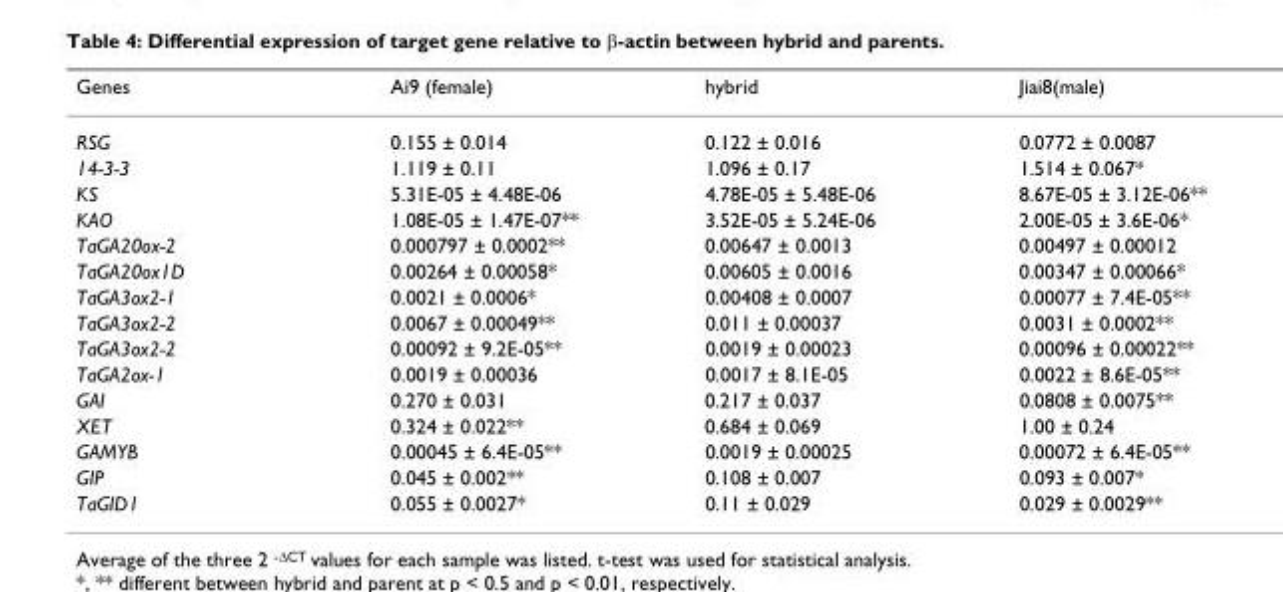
<table><thead><tr><td>Genes</td><td>Ai9 (female)</td><td>hybrid</td><td>Jiai8(male)</td></tr></thead><tbody><tr><td>RSG</td><td>0.155 ± 0.014</td><td>0.122 ± 0.016</td><td>0.0772 ± 0.0087</td></tr><tr><td>14-3-3</td><td>1.119 ± 0.11</td><td>1.096 ± 0.17</td><td>1.514 ± 0.067*</td></tr><tr><td>KS</td><td>5.31E-05 ± 4.48E-06</td><td>4.78E-05 ± 5.48E-06</td><td>8.67E-05 ± 3.12E-06**</td></tr><tr><td>KAO</td><td>1.08E-05 ± 1.47E-07**</td><td>3.52E-05 ± 5.24E-06</td><td>2.00E-05 ± 3.6E-06*</td></tr><tr><td>TaGA20ox-2</td><td>0.000797 ± 0.0002**</td><td>0.00647 ± 0.0013</td><td>0.00497 ± 0.00012</td></tr><tr><td>TaGA20ox1D</td><td>0.00264 ± 0.00058*</td><td>0.00605 ± 0.0016</td><td>0.00347 ± 0.00066*</td></tr><tr><td>TaGA3ox2-1</td><td>0.0021 ± 0.0006*</td><td>0.00408 ± 0.0007</td><td>0.00077 ± 7.4E-05**</td></tr><tr><td>TaGA3ox2-2</td><td>0.0067 ± 0.00049**</td><td>0.011 ± 0.00037</td><td>0.0031 ± 0.0002**</td></tr><tr><td>TaGA3ox2-2</td><td>0.00092 ± 9.2E-05**</td><td>0.0019 ± 0.00023</td><td>0.00096 ± 0.00022**</td></tr><tr><td>TaGA2ox-1</td><td>0.0019 ± 0.00036</td><td>0.0017 ± 8.1E-05</td><td>0.0022 ± 8.6E-05**</td></tr><tr><td>GAI</td><td>0.270 ± 0.031</td><td>0.217 ± 0.037</td><td>0.0808 ± 0.0075**</td></tr><tr><td>XET</td><td>0.324 ± 0.022**</td><td>0.684 ± 0.069</td><td>1.00 ± 0.24</td></tr><tr><td>GAMYB</td><td>0.00045 ± 6.4E-05**</td><td>0.0019 ± 0.00025</td><td>0.00072 ± 6.4E-05**</td></tr><tr><td>GIP</td><td>0.045 ± 0.002**</td><td>0.108 ± 0.007</td><td>0.093 ± 0.007*</td></tr><tr><td>TaGID1</td><td>0.055 ± 0.0027*</td><td>0.11 ± 0.029</td><td>0.029 ± 0.0029**</td></tr></tbody></table>